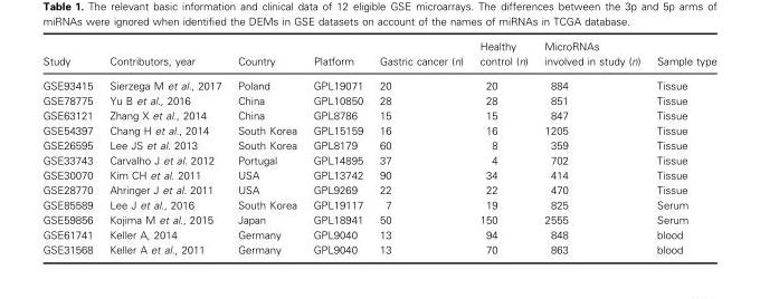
<table><thead><tr><td>Study</td><td>Contributors, year</td><td>Country</td><td>Platform</td><td>Gastric cancer (n)</td><td>Healthy control (n)</td><td>MicroRNAs involved in study (n)</td><td>Sample type</td></tr></thead><tbody><tr><td>GSE93415</td><td>Sierzega M et al., 2017</td><td>Poland</td><td>GPL19071</td><td>20</td><td>20</td><td>884</td><td>Tissue</td></tr><tr><td>GSE78775</td><td>Yu B et al., 2016</td><td>China</td><td>GPL10850</td><td>28</td><td>28</td><td>851</td><td>Tissue</td></tr><tr><td>GSE63121</td><td>Zhang X et al., 2014</td><td>China</td><td>GPL8786</td><td>15</td><td>15</td><td>847</td><td>Tissue</td></tr><tr><td>GSE54397</td><td>Chang H et al., 2014</td><td>South Korea</td><td>GPL15159</td><td>16</td><td>16</td><td>1205</td><td>Tissue</td></tr><tr><td>GSE26595</td><td>Lee JS et al. 2013</td><td>South Korea</td><td>GPL8179</td><td>60</td><td>8</td><td>359</td><td>Tissue</td></tr><tr><td>GSE33743</td><td>Carvalho J et al. 2012</td><td>Portugal</td><td>GPL14895</td><td>37</td><td>4</td><td>702</td><td>Tissue</td></tr><tr><td>GSE30070</td><td>Kim CH et al. 2011</td><td>USA</td><td>GPL13742</td><td>90</td><td>34</td><td>414</td><td>Tissue</td></tr><tr><td>GSE28770</td><td>Ahringer J et al. 2011</td><td>USA</td><td>GPL9269</td><td>22</td><td>22</td><td>470</td><td>Tissue</td></tr><tr><td>GSE85589</td><td>Lee J et al., 2016</td><td>South Korea</td><td>GPL19117</td><td>7</td><td>19</td><td>825</td><td>Serum</td></tr><tr><td>GSE59856</td><td>Kojima M et al., 2015</td><td>Japan</td><td>GPL18941</td><td>50</td><td>150</td><td>2555</td><td>Serum</td></tr><tr><td>GSE61741</td><td>Keller A, 2014</td><td>Germany</td><td>GPL9040</td><td>13</td><td>94</td><td>848</td><td>blood</td></tr><tr><td>GSE31568</td><td>Keller A et al., 2011</td><td>Germany</td><td>GPL9040</td><td>13</td><td>70</td><td>863</td><td>blood</td></tr></tbody></table>